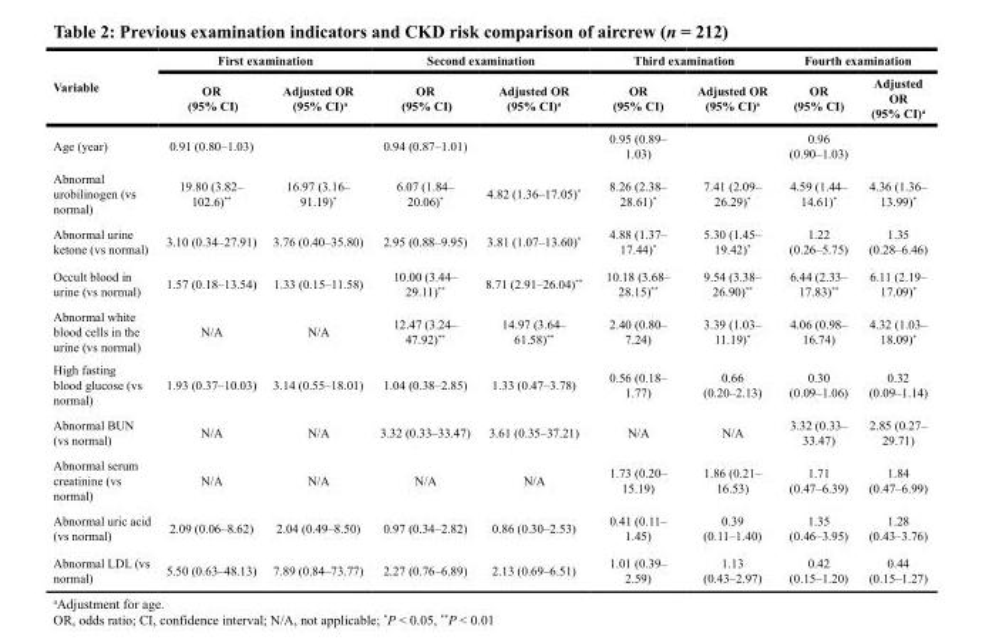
<table><thead><tr><td rowspan="2">Variable</td><td colspan="2">First examination</td><td colspan="2">Second examination</td><td colspan="2">Third examination</td><td colspan="2">Fourth examination</td></tr><tr><td>OR (95% CI)</td><td>Adjusted OR (95% CI)<sup>a</sup></td><td>OR (95% CI)</td><td>Adjusted OR (95% CI)<sup>a</sup></td><td>OR (95% CI)</td><td>Adjusted OR (95% CI)<sup>a</sup></td><td>OR (95% CI)</td><td>Adjusted OR (95% CI)<sup>a</sup></td></tr></thead><tbody><tr><td>Age (year)</td><td>0.91 (0.80–1.03)</td><td></td><td>0.94 (0.87–1.01)</td><td></td><td>0.95 (0.89– 1.03)</td><td></td><td>0.96 (0.90–1.03)</td><td></td></tr><tr><td>Abnormal urobilinogen (vs normal)</td><td>19.80 (3.82– 102.6)**</td><td>16.97 (3.16– 91.19)*</td><td>6.07 (1.84– 20.06)*</td><td>4.82 (1.36–17.05)*</td><td>8.26 (2.38– 28.61)*</td><td>7.41 (2.09– 26.29)*</td><td>4.59 (1.44– 14.61)*</td><td>4.36 (1.36– 13.99)*</td></tr><tr><td>Abnormal urine ketone (vs normal)</td><td>3.10 (0.34–27.91)</td><td>3.76 (0.40–35.80)</td><td>2.95 (0.88–9.95)</td><td>3.81 (1.07–13.60)*</td><td>4.88 (1.37– 17.44)*</td><td>5.30 (1.45– 19.42)*</td><td>1.22 (0.26–5.75)</td><td>1.35 (0.28–6.46)</td></tr><tr><td>Occult blood in urine (vs normal)</td><td>1.57 (0.18–13.54)</td><td>1.33 (0.15–11.58)</td><td>10.00 (3.44– 29.11)**</td><td>8.71 (2.91–26.04)**</td><td>10.18 (3.68– 28.15)**</td><td>9.54 (3.38– 26.90)**</td><td>6.44 (2.33– 17.83)**</td><td>6.11 (2.19– 17.09)*</td></tr><tr><td>Abnormal white blood cells in the urine (vs normal)</td><td>N/A</td><td>N/A</td><td>12.47 (3.24– 47.92)**</td><td>14.97 (3.64– 61.58)**</td><td>2.40 (0.80– 7.24)</td><td>3.39 (1.03– 11.19)*</td><td>4.06 (0.98– 16.74)</td><td>4.32 (1.03– 18.09)*</td></tr><tr><td>High fasting blood glucose (vs normal)</td><td>1.93 (0.37–10.03)</td><td>3.14 (0.55–18.01)</td><td>1.04 (0.38–2.85)</td><td>1.33 (0.47–3.78)</td><td>0.56 (0.18– 1.77)</td><td>0.66 (0.20–2.13)</td><td>0.30 (0.09–1.06)</td><td>0.32 (0.09–1.14)</td></tr><tr><td>Abnormal BUN (vs normal)</td><td>N/A</td><td>N/A</td><td>3.32 (0.33–33.47)</td><td>3.61 (0.35–37.21)</td><td>N/A</td><td>N/A</td><td>3.32 (0.33– 33.47)</td><td>2.85 (0.27– 29.71)</td></tr><tr><td>Abnormal serum creatinine (vs normal)</td><td>N/A</td><td>N/A</td><td>N/A</td><td>N/A</td><td>1.73 (0.20– 15.19)</td><td>1.86 (0.21– 16.53)</td><td>1.71 (0.47–6.39)</td><td>1.84 (0.47–6.99)</td></tr><tr><td>Abnormal uric acid (vs normal)</td><td>2.09 (0.06–8.62)</td><td>2.04 (0.49–8.50)</td><td>0.97 (0.34–2.82)</td><td>0.86 (0.30–2.53)</td><td>0.41 (0.11– 1.45)</td><td>0.39 (0.11–1.40)</td><td>1.35 (0.46–3.95)</td><td>1.28 (0.43–3.76)</td></tr><tr><td>Abnormal LDL (vs normal)</td><td>5.50 (0.63–48.13)</td><td>7.89 (0.84–73.77)</td><td>2.27 (0.76–6.89)</td><td>2.13 (0.69–6.51)</td><td>1.01 (0.39– 2.59)</td><td>1.13 (0.43–2.97)</td><td>0.42 (0.15–1.20)</td><td>0.44 (0.15–1.27)</td></tr></tbody></table>